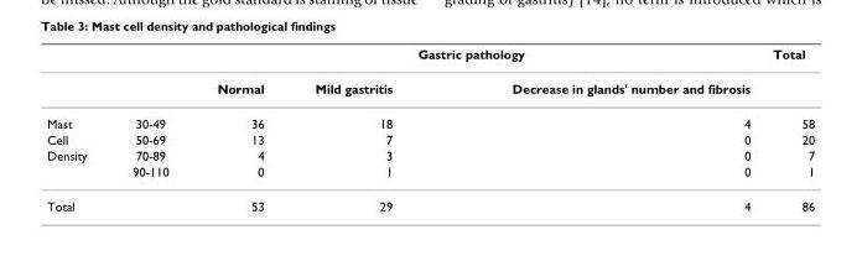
<table><thead><tr><td rowspan="2"></td><td rowspan="2"></td><td colspan="3">Gastric pathology</td><td rowspan="2">Total</td></tr><tr><td>Normal</td><td>Mild gastritis</td><td>Decrease in glands&#x27; number and fibrosis</td></tr></thead><tbody><tr><td>Mast</td><td>30-49</td><td>36</td><td>18</td><td>4</td><td>58</td></tr><tr><td>Cell</td><td>50-69</td><td>13</td><td>7</td><td>0</td><td>20</td></tr><tr><td rowspan="2">Density</td><td>70-89</td><td>4</td><td>3</td><td>0</td><td>7</td></tr><tr><td>90-110</td><td>0</td><td>1</td><td>0</td><td>1</td></tr><tr><td>Total</td><td></td><td>53</td><td>29</td><td>4</td><td>86</td></tr></tbody></table>